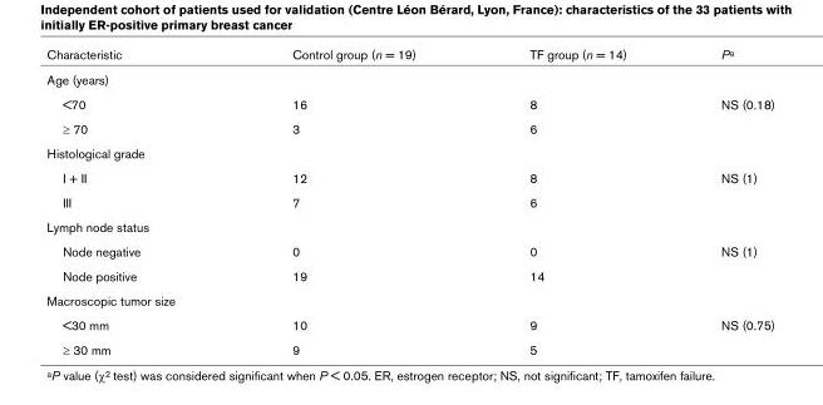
<table><thead><tr><td>Characteristic</td><td>Control group (n = 19)</td><td>TF group (n = 14)</td><td>P<sup>a</sup></td></tr></thead><tbody><tr><td colspan="4">Age (years)</td></tr><tr><td>&lt;70</td><td>16</td><td>8</td><td>NS (0.18)</td></tr><tr><td>≥ 70</td><td>3</td><td>6</td><td></td></tr><tr><td colspan="4">Histological grade</td></tr><tr><td>I + II</td><td>12</td><td>8</td><td>NS (1)</td></tr><tr><td>III</td><td>7</td><td>6</td><td></td></tr><tr><td colspan="4">Lymph node status</td></tr><tr><td>Node negative</td><td>0</td><td>0</td><td>NS (1)</td></tr><tr><td>Node positive</td><td>19</td><td>14</td><td></td></tr><tr><td colspan="4">Macroscopic tumor size</td></tr><tr><td>&lt;30 mm</td><td>10</td><td>9</td><td>NS (0.75)</td></tr><tr><td>≥ 30 mm</td><td>9</td><td>5</td><td></td></tr></tbody></table>